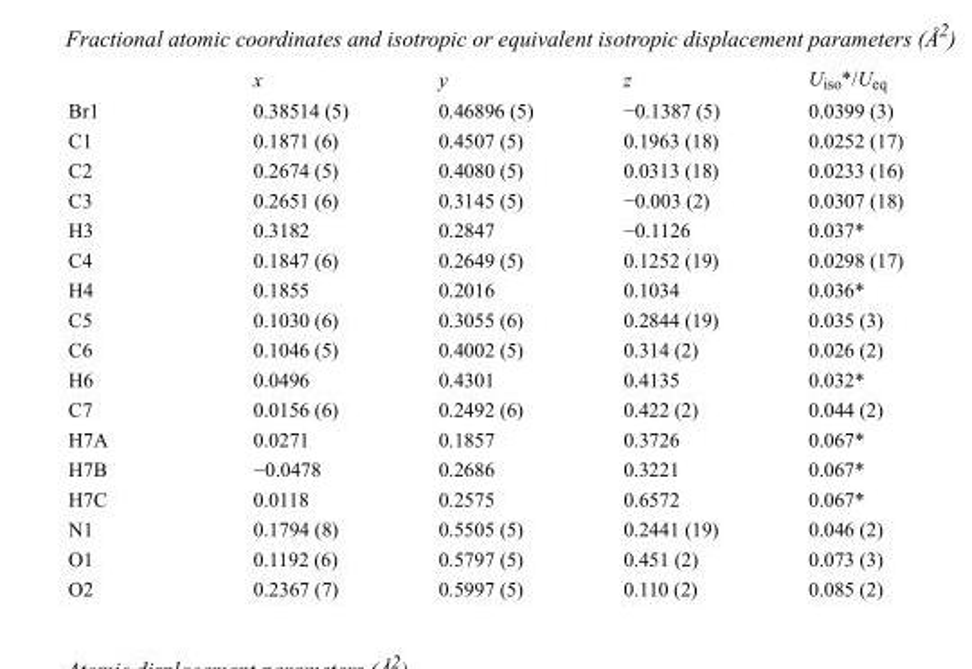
<table><thead><tr><td></td><td>x</td><td>y</td><td>z</td><td>U<sub>iso</sub>*/U<sub>eq</sub></td></tr></thead><tbody><tr><td>Br1</td><td>0.38514 (5)</td><td>0.46896 (5)</td><td>−0.1387 (5)</td><td>0.0399 (3)</td></tr><tr><td>C1</td><td>0.1871 (6)</td><td>0.4507 (5)</td><td>0.1963 (18)</td><td>0.0252 (17)</td></tr><tr><td>C2</td><td>0.2674 (5)</td><td>0.4080 (5)</td><td>0.0313 (18)</td><td>0.0233 (16)</td></tr><tr><td>C3</td><td>0.2651 (6)</td><td>0.3145 (5)</td><td>−0.003 (2)</td><td>0.0307 (18)</td></tr><tr><td>H3</td><td>0.3182</td><td>0.2847</td><td>−0.1126</td><td>0.037*</td></tr><tr><td>C4</td><td>0.1847 (6)</td><td>0.2649 (5)</td><td>0.1252 (19)</td><td>0.0298 (17)</td></tr><tr><td>H4</td><td>0.1855</td><td>0.2016</td><td>0.1034</td><td>0.036*</td></tr><tr><td>C5</td><td>0.1030 (6)</td><td>0.3055 (6)</td><td>0.2844 (19)</td><td>0.035 (3)</td></tr><tr><td>C6</td><td>0.1046 (5)</td><td>0.4002 (5)</td><td>0.314 (2)</td><td>0.026 (2)</td></tr><tr><td>H6</td><td>0.0496</td><td>0.4301</td><td>0.4135</td><td>0.032*</td></tr><tr><td>C7</td><td>0.0156 (6)</td><td>0.2492 (6)</td><td>0.422 (2)</td><td>0.044 (2)</td></tr><tr><td>H7A</td><td>0.0271</td><td>0.1857</td><td>0.3726</td><td>0.067*</td></tr><tr><td>H7B</td><td>−0.0478</td><td>0.2686</td><td>0.3221</td><td>0.067*</td></tr><tr><td>H7C</td><td>0.0118</td><td>0.2575</td><td>0.6572</td><td>0.067*</td></tr><tr><td>N1</td><td>0.1794 (8)</td><td>0.5505 (5)</td><td>0.2441 (19)</td><td>0.046 (2)</td></tr><tr><td>O1</td><td>0.1192 (6)</td><td>0.5797 (5)</td><td>0.451 (2)</td><td>0.073 (3)</td></tr><tr><td>O2</td><td>0.2367 (7)</td><td>0.5997 (5)</td><td>0.110 (2)</td><td>0.085 (2)</td></tr></tbody></table>